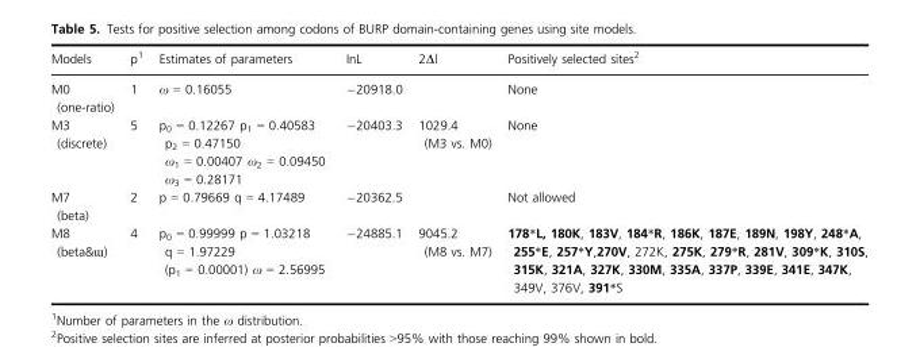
<table><thead><tr><td>Models</td><td>p1</td><td>Estimates of parameters</td><td>InL</td><td>2Δl</td><td>Positively selected sites2</td></tr></thead><tbody><tr><td>M0 (one-ratio)</td><td>1</td><td>ω = 0.16055</td><td>−20918.0</td><td></td><td>None</td></tr><tr><td>M3 (discrete)</td><td>5</td><td>p<sub>0</sub> = 0.12267 p<sub>1</sub> = 0.40583 p<sub>2</sub> = 0.47150 ω<sub>1</sub> = 0.00407 ω<sub>2</sub> = 0.09450 ω<sub>3</sub> = 0.28171</td><td>−20403.3</td><td>1029.4 (M3 vs. M0)</td><td>None</td></tr><tr><td>M7 (beta)</td><td>2</td><td>p = 0.79669 q = 4.17489</td><td>−20362.5</td><td></td><td>Not allowed</td></tr><tr><td>M8 (beta&amp;ɯ)</td><td>4</td><td>p<sub>0</sub> = 0.99999 p = 1.03218 q = 1.97229 (p<sub>1</sub> = 0.00001) ω = 2.56995</td><td>−24885.1</td><td>9045.2 (M8 vs. M7)</td><td>178*L, 180K, 183V, 184*R, 186K, 187E, 189N, 198Y, 248*A, 255*E, 257*Y,270V, 272K, 275K, 279*R, 281V, 309*K, 310S, 315K, 321A, 327K, 330M, 335A, 337P, 339E, 341E, 347K, 349V, 376V, 391*S</td></tr></tbody></table>